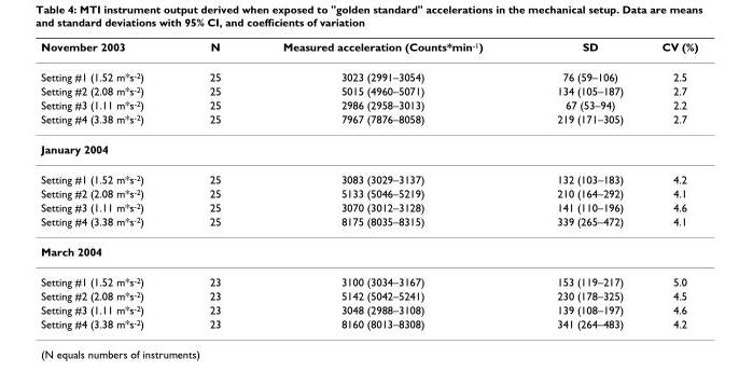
<table><thead><tr><td>November 2003</td><td>N</td><td>Measured acceleration (Counts*min<sup>-1</sup>)</td><td>SD</td><td>CV (%)</td></tr></thead><tbody><tr><td>Setting #1 (1.52 m*s<sup>-2</sup>)</td><td>25</td><td>3023 (2991–3054)</td><td>76 (59–106)</td><td>2.5</td></tr><tr><td>Setting #2 (2.08 m*s<sup>-2</sup>)</td><td>25</td><td>5015 (4960–5071)</td><td>134 (105–187)</td><td>2.7</td></tr><tr><td>Setting #3 (1.11 m*s<sup>-2</sup>)</td><td>25</td><td>2986 (2958–3013)</td><td>67 (53–94)</td><td>2.2</td></tr><tr><td>Setting #4 (3.38 m*s<sup>-2</sup>)</td><td>25</td><td>7967 (7876–8058)</td><td>219 (171–305)</td><td>2.7</td></tr><tr><td colspan="5">January 2004</td></tr><tr><td>Setting #1 (1.52 m*s<sup>-2</sup>)</td><td>25</td><td>3083 (3029–3137)</td><td>132 (103–183)</td><td>4.2</td></tr><tr><td>Setting #2 (2.08 m*s<sup>-2</sup>)</td><td>25</td><td>5133 (5046–5219)</td><td>210 (164–292)</td><td>4.1</td></tr><tr><td>Setting #3 (1.11 m*s<sup>-2</sup>)</td><td>25</td><td>3070 (3012–3128)</td><td>141 (110–196)</td><td>4.6</td></tr><tr><td>Setting #4 (3.38 m*s<sup>-2</sup>)</td><td>25</td><td>8175 (8035–8315)</td><td>339 (265–472)</td><td>4.1</td></tr><tr><td colspan="5">March 2004</td></tr><tr><td>Setting #1 (1.52 m*s<sup>-2</sup>)</td><td>23</td><td>3100 (3034–3167)</td><td>153 (119–217)</td><td>5.0</td></tr><tr><td>Setting #2 (2.08 m*s<sup>-2</sup>)</td><td>23</td><td>5142 (5042–5241)</td><td>230 (178–325)</td><td>4.5</td></tr><tr><td>Setting #3 (1.11 m*s<sup>-2</sup>)</td><td>23</td><td>3048 (2988–3108)</td><td>139 (108–197)</td><td>4.6</td></tr><tr><td>Setting #4 (3.38 m*s<sup>-2</sup>)</td><td>23</td><td>8160 (8013–8308)</td><td>341 (264–483)</td><td>4.2</td></tr></tbody></table>